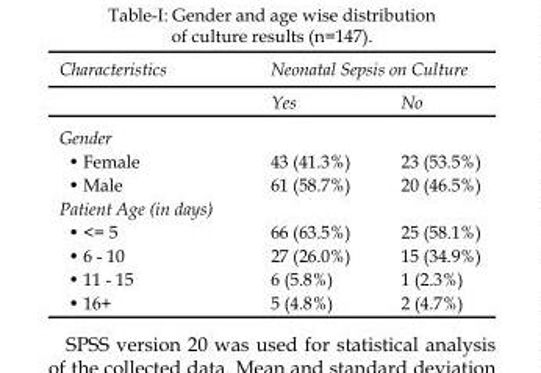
<table><thead><tr><td rowspan="2">Characteristics</td><td colspan="2">Neonatal Sepsis on Culture</td></tr><tr><td>Yes</td><td>No</td></tr></thead><tbody><tr><td colspan="3">Gender</td></tr><tr><td>• Female</td><td>43 (41.3%)</td><td>23 (53.5%)</td></tr><tr><td>• Male</td><td>61 (58.7%)</td><td>20 (46.5%)</td></tr><tr><td colspan="3">Patient Age (in days)</td></tr><tr><td>• &lt;= 5</td><td>66 (63.5%)</td><td>25 (58.1%)</td></tr><tr><td>• 6 - 10</td><td>27 (26.0%)</td><td>15 (34.9%)</td></tr><tr><td>• 11 - 15</td><td>6 (5.8%)</td><td>1 (2.3%)</td></tr><tr><td>• 16+</td><td>5 (4.8%)</td><td>2 (4.7%)</td></tr></tbody></table>